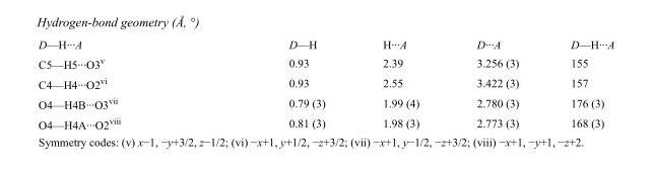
<table><tbody><tr><td>D—H···A</td><td>D—H</td><td>H···A</td><td>D···A</td><td>D—H···A</td></tr><tr><td>C5—H5···O3<sup>v</sup></td><td>0.93</td><td>2.39</td><td>3.256 (3)</td><td>155</td></tr><tr><td>C4—H4···O2<sup>vi</sup></td><td>0.93</td><td>2.55</td><td>3.422 (3)</td><td>157</td></tr><tr><td>O4—H4B···O3<sup>vii</sup></td><td>0.79 (3)</td><td>1.99 (4)</td><td>2.780 (3)</td><td>176 (3)</td></tr><tr><td>O4—H4A···O2<sup>viii</sup></td><td>0.81 (3)</td><td>1.98 (3)</td><td>2.773 (3)</td><td>168 (3)</td></tr></tbody></table>